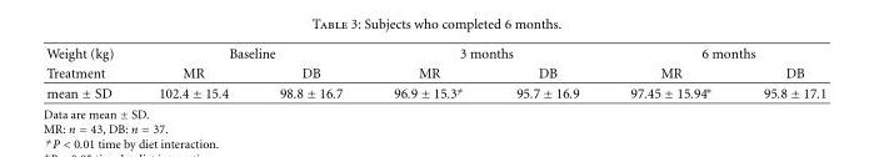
<table><thead><tr><td rowspan="2">Weight (kg) Treatment</td><td colspan="2">Baseline</td><td colspan="2">3 months</td><td colspan="2">6 months</td></tr><tr><td>MR</td><td>DB</td><td>MR</td><td>DB</td><td>MR</td><td>DB</td></tr></thead><tbody><tr><td>mean ± SD</td><td>102.4 ± 15.4</td><td>98.8 ± 16.7</td><td>96.9 ± 15.3/=</td><td>95.7 ± 16.9</td><td>97.45 ± 15.94∗</td><td>95.8 ± 17.1</td></tr></tbody></table>